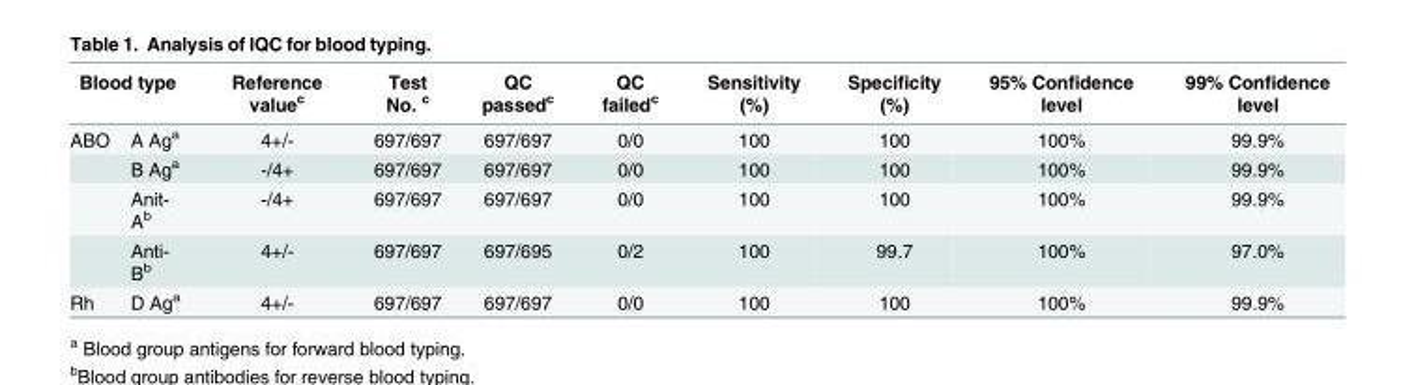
<table><thead><tr><td colspan="2">Blood type</td><td rowspan="2">Reference value<sup>c</sup> 4+/-</td><td rowspan="2">Test No. <sup>c</sup> 697/697</td><td rowspan="2">QC passed<sup>c</sup> 697/697</td><td rowspan="2">QC failed<sup>c</sup> 0/0</td><td rowspan="2">Sensitivity (%) 100</td><td rowspan="2">Specificity (%) 100</td><td rowspan="2">95% Confidence level 100%</td><td rowspan="2">99% Confidence level 99.9%</td></tr><tr><td>ABO</td><td>A Ag<sup>a</sup></td></tr></thead><tbody><tr><td></td><td>B Ag<sup>a</sup></td><td>-/4+</td><td>697/697</td><td>697/697</td><td>0/0</td><td>100</td><td>100</td><td>100%</td><td>99.9%</td></tr><tr><td></td><td>Anit- A<sup>b</sup></td><td>-/4+</td><td>697/697</td><td>697/697</td><td>0/0</td><td>100</td><td>100</td><td>100%</td><td>99.9%</td></tr><tr><td></td><td>Anti- B<sup>b</sup></td><td>4+/-</td><td>697/697</td><td>697/695</td><td>0/2</td><td>100</td><td>99.7</td><td>100%</td><td>97.0%</td></tr><tr><td>Rh</td><td>D Ag<sup>a</sup></td><td>4+/-</td><td>697/697</td><td>697/697</td><td>0/0</td><td>100</td><td>100</td><td>100%</td><td>99.9%</td></tr></tbody></table>